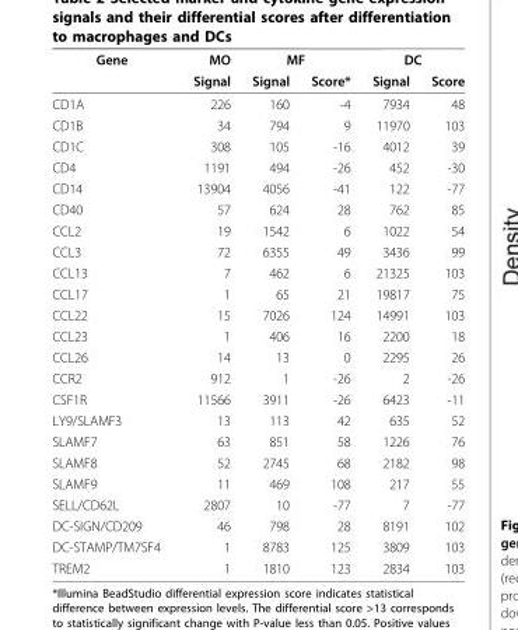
<table><thead><tr><td rowspan="2">Gene</td><td rowspan="2">MO Signal</td><td colspan="2">MF</td><td colspan="2">DC</td></tr><tr><td>Signal</td><td>Score*</td><td>Signal</td><td>Score</td></tr></thead><tbody><tr><td>CD1A</td><td>226</td><td>160</td><td>-4</td><td>7934</td><td>48</td></tr><tr><td>CD1B</td><td>34</td><td>794</td><td>9</td><td>11970</td><td>103</td></tr><tr><td>CD1C</td><td>308</td><td>105</td><td>-16</td><td>4012</td><td>39</td></tr><tr><td>CD4</td><td>1191</td><td>494</td><td>-26</td><td>452</td><td>-30</td></tr><tr><td>CD14</td><td>13904</td><td>4056</td><td>-41</td><td>122</td><td>-77</td></tr><tr><td>CD40</td><td>57</td><td>624</td><td>28</td><td>762</td><td>85</td></tr><tr><td>CCL2</td><td>19</td><td>1542</td><td>6</td><td>1022</td><td>54</td></tr><tr><td>CCL3</td><td>72</td><td>6355</td><td>49</td><td>3436</td><td>99</td></tr><tr><td>CCL13</td><td>7</td><td>462</td><td>6</td><td>21325</td><td>103</td></tr><tr><td>CCL17</td><td>1</td><td>65</td><td>21</td><td>19817</td><td>75</td></tr><tr><td>CCL22</td><td>15</td><td>7026</td><td>124</td><td>14991</td><td>103</td></tr><tr><td>CCL23</td><td>1</td><td>406</td><td>16</td><td>2200</td><td>18</td></tr><tr><td>CCL26</td><td>14</td><td>13</td><td>0</td><td>2295</td><td>26</td></tr><tr><td>CCR2</td><td>912</td><td>1</td><td>-26</td><td>2</td><td>-26</td></tr><tr><td>CSF1R</td><td>11566</td><td>3911</td><td>-26</td><td>6423</td><td>-11</td></tr><tr><td>LY9/SLAMF3</td><td>13</td><td>113</td><td>42</td><td>635</td><td>52</td></tr><tr><td>SLAMF7</td><td>63</td><td>851</td><td>58</td><td>1226</td><td>76</td></tr><tr><td>SLAMF8</td><td>52</td><td>2745</td><td>68</td><td>2182</td><td>98</td></tr><tr><td>SLAMF9</td><td>11</td><td>469</td><td>108</td><td>217</td><td>55</td></tr><tr><td>SELL/CD62L</td><td>2807</td><td>10</td><td>-77</td><td>7</td><td>-77</td></tr><tr><td>DC-SIGN/CD209</td><td>46</td><td>798</td><td>28</td><td>8191</td><td>102</td></tr><tr><td>DC-STAMP/TM7SF4</td><td>1</td><td>8783</td><td>125</td><td>3809</td><td>103</td></tr><tr><td>TREM2</td><td>1</td><td>1810</td><td>123</td><td>2834</td><td>103</td></tr></tbody></table>